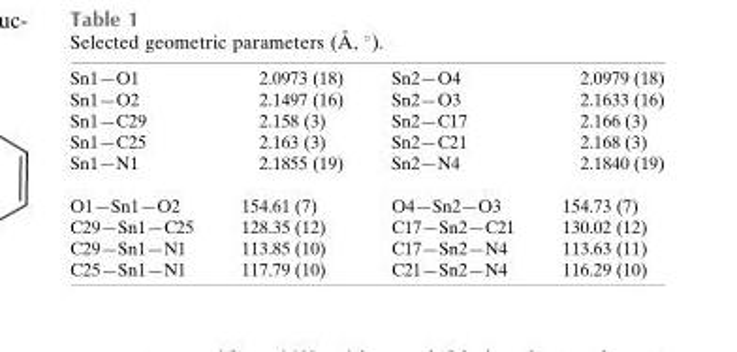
<table><tbody><tr><td>Sn1—O1</td><td>2.0973 (18)</td><td>Sn2—O4</td><td>2.0979 (18)</td></tr><tr><td>Sn1—O2</td><td>2.1497 (16)</td><td>Sn2—O3</td><td>2.1633 (16)</td></tr><tr><td>Sn1—C29</td><td>2.158 (3)</td><td>Sn2—C17</td><td>2.166 (3)</td></tr><tr><td>Sn1—C25</td><td>2.163 (3)</td><td>Sn2—C21</td><td>2.168 (3)</td></tr><tr><td>Sn1—N1</td><td>2.1855 (19)</td><td>Sn2—N4</td><td>2.1840 (19)</td></tr><tr><td>O1—Sn1—O2</td><td>154.61 (7)</td><td>O4—Sn2—O3</td><td>154.73 (7)</td></tr><tr><td>C29—Sn1—C25</td><td>128.35 (12)</td><td>C17—Sn2—C21</td><td>130.02 (12)</td></tr><tr><td>C29—Sn1—N1</td><td>113.85 (10)</td><td>C17—Sn2—N4</td><td>113.63 (11)</td></tr><tr><td>C25—Sn1—N1</td><td>117.79 (10)</td><td>C21—Sn2—N4</td><td>116.29 (10)</td></tr></tbody></table>